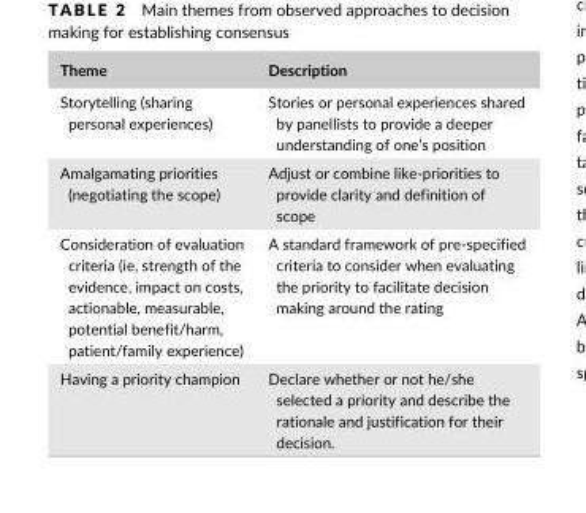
<table><thead><tr><td>Theme</td><td>Description</td></tr></thead><tbody><tr><td>Storytelling (sharing personal experiences)</td><td>Stories or personal experiences shared by panellists to provide a deeper understanding of one’s position</td></tr><tr><td>Amalgamating priorities (negotiating the scope)</td><td>Adjust or combine like- priorities to provide clarity and definition of scope</td></tr><tr><td>Consideration of evaluation criteria (ie, strength of the evidence, impact on costs, actionable, measurable, potential benefit/harm, patient/family experience)</td><td>A standard framework of pre- specified criteria to consider when evaluating the priority to facilitate decision making around the rating</td></tr><tr><td>Having a priority champion</td><td>Declare whether or not he/she selected a priority and describe the rationale and justification for their decision.</td></tr></tbody></table>